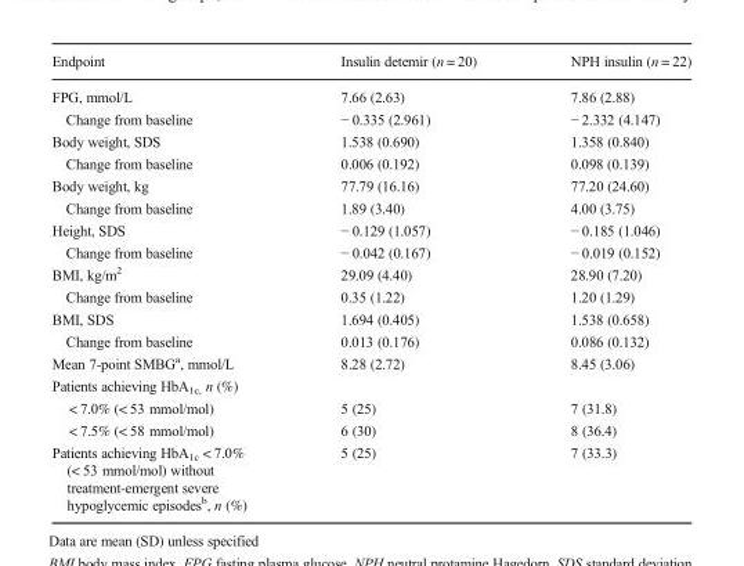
<table><thead><tr><td>Endpoint</td><td>Insulin detemir (n = 20)</td><td>NPH insulin (n = 22)</td></tr></thead><tbody><tr><td>FPG, mmol/L</td><td>7.66 (2.63)</td><td>7.86 (2.88)</td></tr><tr><td>Change from baseline</td><td>− 0.335 (2.961)</td><td>− 2.332 (4.147)</td></tr><tr><td>Body weight, SDS</td><td>1.538 (0.690)</td><td>1.358 (0.840)</td></tr><tr><td>Change from baseline</td><td>0.006 (0.192)</td><td>0.098 (0.139)</td></tr><tr><td>Body weight, kg</td><td>77.79 (16.16)</td><td>77.20 (24.60)</td></tr><tr><td>Change from baseline</td><td>1.89 (3.40)</td><td>4.00 (3.75)</td></tr><tr><td>Height, SDS</td><td>− 0.129 (1.057)</td><td>− 0.185 (1.046)</td></tr><tr><td>Change from baseline</td><td>− 0.042 (0.167)</td><td>− 0.019 (0.152)</td></tr><tr><td>BMI, kg/m<sup>2</sup></td><td>29.09 (4.40)</td><td>28.90 (7.20)</td></tr><tr><td>Change from baseline</td><td>0.35 (1.22)</td><td>1.20 (1.29)</td></tr><tr><td>BMI, SDS</td><td>1.694 (0.405)</td><td>1.538 (0.658)</td></tr><tr><td>Change from baseline</td><td>0.013 (0.176)</td><td>0.086 (0.132)</td></tr><tr><td>Mean 7-point SMBG<sup>a</sup>, mmol/L</td><td>8.28 (2.72)</td><td>8.45 (3.06)</td></tr><tr><td colspan="3">Patients achieving HbA<sub>1c,</sub> n (%)</td></tr><tr><td>&lt; 7.0% (&lt; 53 mmol/mol)</td><td>5 (25)</td><td>7 (31.8)</td></tr><tr><td>&lt; 7.5% (&lt; 58 mmol/mol)</td><td>6 (30)</td><td>8 (36.4)</td></tr><tr><td>Patients achieving HbA<sub>1c</sub> &lt; 7.0% (&lt; 53 mmol/mol) without treatment-emergent severe hypoglycemic episodes<sup>b</sup>, n (%)</td><td>5 (25)</td><td>7 (33.3)</td></tr></tbody></table>